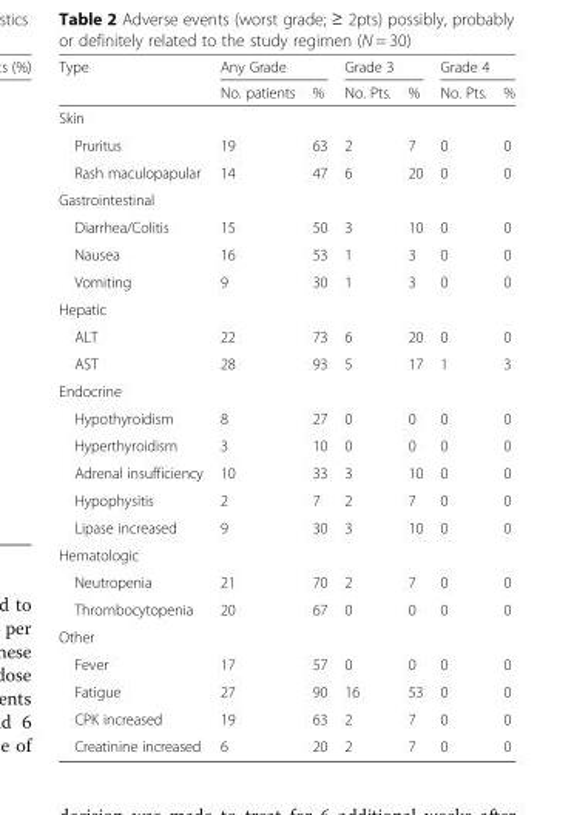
<table><thead><tr><td rowspan="2">Type</td><td colspan="2">Any Grade</td><td colspan="2">Grade 3</td><td colspan="2">Grade 4</td></tr><tr><td>No. patients</td><td>%</td><td>No. Pts.</td><td>%</td><td>No. Pts.</td><td>%</td></tr></thead><tbody><tr><td colspan="7">Skin</td></tr><tr><td>Pruritus</td><td>19</td><td>63</td><td>2</td><td>7</td><td>0</td><td>0</td></tr><tr><td>Rash maculopapular</td><td>14</td><td>47</td><td>6</td><td>20</td><td>0</td><td>0</td></tr><tr><td colspan="7">Gastrointestinal</td></tr><tr><td>Diarrhea/Colitis</td><td>15</td><td>50</td><td>3</td><td>10</td><td>0</td><td>0</td></tr><tr><td>Nausea</td><td>16</td><td>53</td><td>1</td><td>3</td><td>0</td><td>0</td></tr><tr><td>Vomiting</td><td>9</td><td>30</td><td>1</td><td>3</td><td>0</td><td>0</td></tr><tr><td colspan="7">Hepatic</td></tr><tr><td>ALT</td><td>22</td><td>73</td><td>6</td><td>20</td><td>0</td><td>0</td></tr><tr><td>AST</td><td>28</td><td>93</td><td>5</td><td>17</td><td>1</td><td>3</td></tr><tr><td colspan="7">Endocrine</td></tr><tr><td>Hypothyroidism</td><td>8</td><td>27</td><td>0</td><td>0</td><td>0</td><td>0</td></tr><tr><td>Hyperthyroidism</td><td>3</td><td>10</td><td>0</td><td>0</td><td>0</td><td>0</td></tr><tr><td>Adrenal insufficiency</td><td>10</td><td>33</td><td>3</td><td>10</td><td>0</td><td>0</td></tr><tr><td>Hypophysitis</td><td>2</td><td>7</td><td>2</td><td>7</td><td>0</td><td>0</td></tr><tr><td>Lipase increased</td><td>9</td><td>30</td><td>3</td><td>10</td><td>0</td><td>0</td></tr><tr><td colspan="7">Hematologic</td></tr><tr><td>Neutropenia</td><td>21</td><td>70</td><td>2</td><td>7</td><td>0</td><td>0</td></tr><tr><td>Thrombocytopenia</td><td>20</td><td>67</td><td>0</td><td>0</td><td>0</td><td>0</td></tr><tr><td colspan="7">Other</td></tr><tr><td>Fever</td><td>17</td><td>57</td><td>0</td><td>0</td><td>0</td><td>0</td></tr><tr><td>Fatigue</td><td>27</td><td>90</td><td>16</td><td>53</td><td>0</td><td>0</td></tr><tr><td>CPK increased</td><td>19</td><td>63</td><td>2</td><td>7</td><td>0</td><td>0</td></tr><tr><td>Creatinine increased</td><td>6</td><td>20</td><td>2</td><td>7</td><td>0</td><td>0</td></tr></tbody></table>